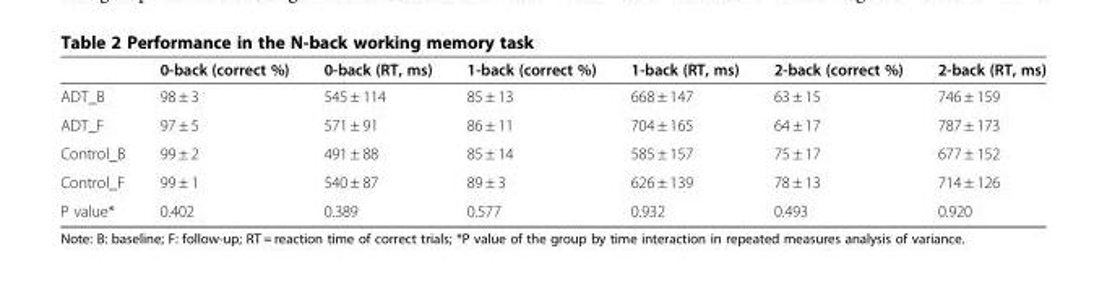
<table><thead><tr><td></td><td>0-back (correct %)</td><td>0-back (RT, ms)</td><td>1-back (correct %)</td><td>1-back (RT, ms)</td><td>2-back (correct %)</td><td>2-back (RT, ms)</td></tr></thead><tbody><tr><td>ADT_B</td><td>98 ± 3</td><td>545 ± 114</td><td>85 ± 13</td><td>668 ± 147</td><td>63 ± 15</td><td>746 ± 159</td></tr><tr><td>ADT_F</td><td>97 ± 5</td><td>571 ± 91</td><td>86 ± 11</td><td>704 ± 165</td><td>64 ± 17</td><td>787 ± 173</td></tr><tr><td>Control_B</td><td>99 ± 2</td><td>491 ± 88</td><td>85 ± 14</td><td>585 ± 157</td><td>75 ± 17</td><td>677 ± 152</td></tr><tr><td>Control_F</td><td>99 ± 1</td><td>540 ± 87</td><td>89 ± 3</td><td>626 ± 139</td><td>78 ± 13</td><td>714 ± 126</td></tr><tr><td>P value*</td><td>0.402</td><td>0.389</td><td>0.577</td><td>0.932</td><td>0.493</td><td>0.920</td></tr></tbody></table>